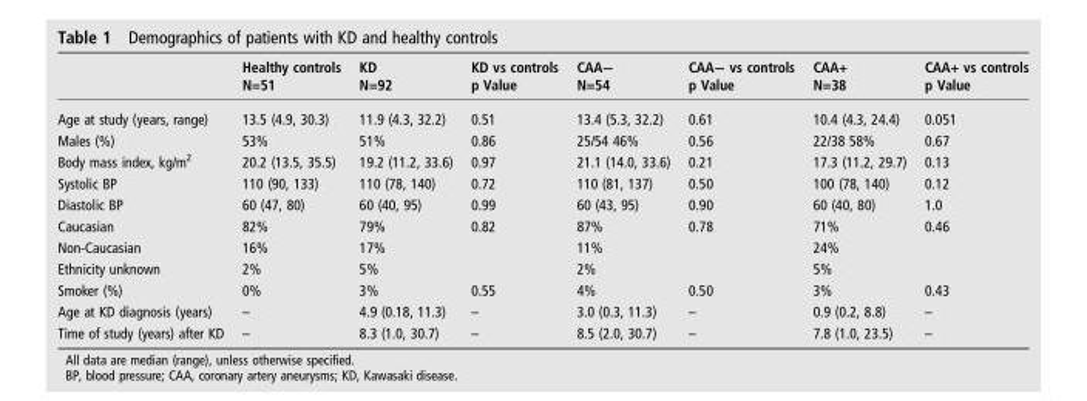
<table><thead><tr><td></td><td>Healthy controls N=51</td><td>KD N=92</td><td>KD vs controls p Value</td><td>CAA− N=54</td><td>CAA− vs controls p Value</td><td>CAA+ N=38</td><td>CAA+ vs controls p Value</td></tr></thead><tbody><tr><td>Age at study (years, range)</td><td>13.5 (4.9, 30.3)</td><td>11.9 (4.3, 32.2)</td><td>0.51</td><td>13.4 (5.3, 32.2)</td><td>0.61</td><td>10.4 (4.3, 24.4)</td><td>0.051</td></tr><tr><td>Males (%)</td><td>53%</td><td>51%</td><td>0.86</td><td>25/54 46%</td><td>0.56</td><td>22/38 58%</td><td>0.67</td></tr><tr><td>Body mass index, kg/m<sup>2</sup></td><td>20.2 (13.5, 35.5)</td><td>19.2 (11.2, 33.6)</td><td>0.97</td><td>21.1 (14.0, 33.6)</td><td>0.21</td><td>17.3 (11.2, 29.7)</td><td>0.13</td></tr><tr><td>Systolic BP</td><td>110 (90, 133)</td><td>110 (78, 140)</td><td>0.72</td><td>110 (81, 137)</td><td>0.50</td><td>100 (78, 140)</td><td>0.12</td></tr><tr><td>Diastolic BP</td><td>60 (47, 80)</td><td>60 (40, 95)</td><td>0.99</td><td>60 (43, 95)</td><td>0.90</td><td>60 (40, 80)</td><td>1.0</td></tr><tr><td>Caucasian</td><td>82%</td><td>79%</td><td rowspan="3">0.82</td><td>87%</td><td rowspan="3">0.78</td><td>71%</td><td rowspan="3">0.46</td></tr><tr><td>Non-Caucasian</td><td>16%</td><td>17%</td><td>11%</td><td>24%</td></tr><tr><td>Ethnicity unknown</td><td>2%</td><td>5%</td><td>2%</td><td>5%</td></tr><tr><td>Smoker (%)</td><td>0%</td><td>3%</td><td>0.55</td><td>4%</td><td>0.50</td><td>3%</td><td>0.43</td></tr><tr><td>Age at KD diagnosis (years)</td><td>–</td><td>4.9 (0.18, 11.3)</td><td>–</td><td>3.0 (0.3, 11.3)</td><td>–</td><td>0.9 (0.2, 8.8)</td><td>–</td></tr><tr><td>Time of study (years) after KD</td><td>–</td><td>8.3 (1.0, 30.7)</td><td>–</td><td>8.5 (2.0, 30.7)</td><td>–</td><td>7.8 (1.0, 23.5)</td><td>–</td></tr></tbody></table>